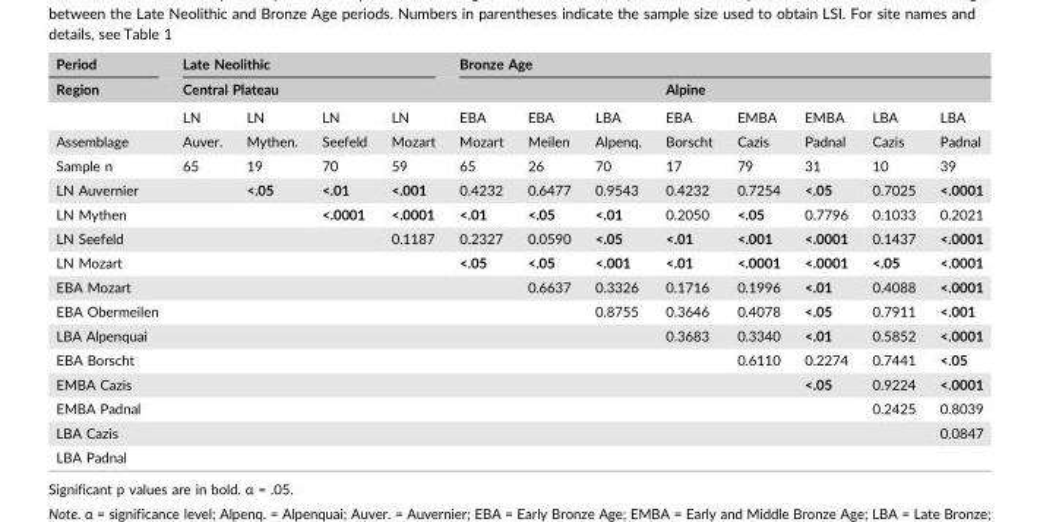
<table><thead><tr><td rowspan="3">Period Region</td><td colspan="4">Late Neolithic</td><td colspan="8">Bronze Age</td></tr><tr><td colspan="7">Central Plateau</td><td colspan="5">Alpine</td></tr><tr><td>LN</td><td>LN</td><td>LN</td><td>LN</td><td>EBA</td><td>EBA</td><td>LBA</td><td>EBA</td><td>EMBA</td><td>EMBA</td><td>LBA</td><td>LBA</td></tr></thead><tbody><tr><td>Assemblage</td><td>Auver.</td><td>Mythen.</td><td>Seefeld</td><td>Mozart</td><td>Mozart</td><td>Meilen</td><td>Alpenq.</td><td>Borscht</td><td>Cazis</td><td>Padnal</td><td>Cazis</td><td>Padnal</td></tr><tr><td>Sample n</td><td>65</td><td>19</td><td>70</td><td>59</td><td>65</td><td>26</td><td>70</td><td>17</td><td>79</td><td>31</td><td>10</td><td>39</td></tr><tr><td>LN Auvernier</td><td></td><td>&lt;.05</td><td>&lt;.01</td><td>&lt;.001</td><td>0.4232</td><td>0.6477</td><td>0.9543</td><td>0.4232</td><td>0.7254</td><td>&lt;.05</td><td>0.7025</td><td>&lt;.0001</td></tr><tr><td>LN Mythen</td><td></td><td></td><td>&lt;.0001</td><td>&lt;.0001</td><td>&lt;.01</td><td>&lt;.05</td><td>&lt;.01</td><td>0.2050</td><td>&lt;.05</td><td>0.7796</td><td>0.1033</td><td>0.2021</td></tr><tr><td>LN Seefeld</td><td></td><td></td><td></td><td>0.1187</td><td>0.2327</td><td>0.0590</td><td>&lt;.05</td><td>&lt;.01</td><td>&lt;.001</td><td>&lt;.0001</td><td>0.1437</td><td>&lt;.0001</td></tr><tr><td>LN Mozart</td><td></td><td></td><td></td><td></td><td>&lt;.05</td><td>&lt;.05</td><td>&lt;.001</td><td>&lt;.01</td><td>&lt;.0001</td><td>&lt;.0001</td><td>&lt;.05</td><td>&lt;.0001</td></tr><tr><td>EBA Mozart</td><td></td><td></td><td></td><td></td><td></td><td>0.6637</td><td>0.3326</td><td>0.1716</td><td>0.1996</td><td>&lt;.01</td><td>0.4088</td><td>&lt;.0001</td></tr><tr><td>EBA Obermeilen</td><td></td><td></td><td></td><td></td><td></td><td></td><td>0.8755</td><td>0.3646</td><td>0.4078</td><td>&lt;.05</td><td>0.7911</td><td>&lt;.001</td></tr><tr><td>LBA Alpenquai</td><td></td><td></td><td></td><td></td><td></td><td></td><td></td><td>0.3683</td><td>0.3340</td><td>&lt;.01</td><td>0.5852</td><td>&lt;.0001</td></tr><tr><td>EBA Borscht</td><td></td><td></td><td></td><td></td><td></td><td></td><td></td><td></td><td>0.6110</td><td>0.2274</td><td>0.7441</td><td>&lt;.05</td></tr><tr><td>EMBA Cazis</td><td></td><td></td><td></td><td></td><td></td><td></td><td></td><td></td><td></td><td>&lt;.05</td><td>0.9224</td><td>&lt;.0001</td></tr><tr><td>EMBA Padnal</td><td></td><td></td><td></td><td></td><td></td><td></td><td></td><td></td><td></td><td></td><td>0.2425</td><td>0.8039</td></tr><tr><td>LBA Cazis</td><td></td><td></td><td></td><td></td><td></td><td></td><td></td><td></td><td></td><td></td><td></td><td>0.0847</td></tr><tr><td>LBA Padnal</td><td></td><td></td><td></td><td></td><td></td><td></td><td></td><td></td><td></td><td></td><td></td><td></td></tr></tbody></table>